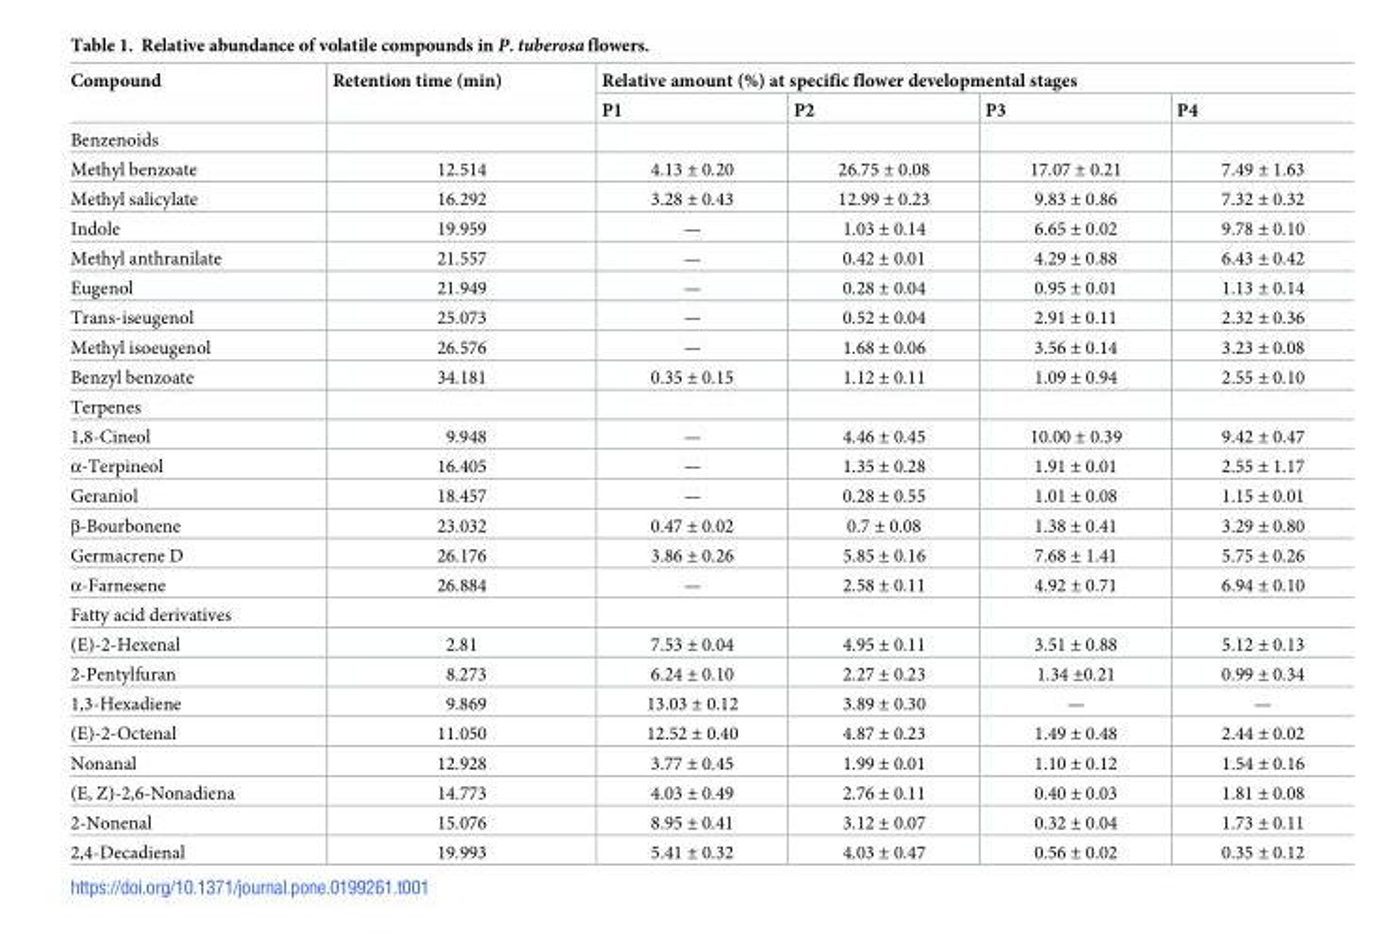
<table><thead><tr><td rowspan="2">Compound</td><td rowspan="2">Retention time (min)</td><td colspan="4">Relative amount (%) at specific flower developmental stages</td></tr><tr><td>P1</td><td>P2</td><td>P3</td><td>P4</td></tr></thead><tbody><tr><td colspan="6">Benzenoids</td></tr><tr><td>Methyl benzoate</td><td>12.514</td><td>4.13 ± 0.20</td><td>26.75 ± 0.08</td><td>17.07 ± 0.21</td><td>7.49 ± 1.63</td></tr><tr><td>Methyl salicylate</td><td>16.292</td><td>3.28 ± 0.43</td><td>12.99 ± 0.23</td><td>9.83 ± 0.86</td><td>7.32 ± 0.32</td></tr><tr><td>Indole</td><td>19.959</td><td>—</td><td>1.03 ± 0.14</td><td>6.65 ± 0.02</td><td>9.78 ± 0.10</td></tr><tr><td>Methyl anthranilate</td><td>21.557</td><td>—</td><td>0.42 ± 0.01</td><td>4.29 ± 0.88</td><td>6.43 ± 0.42</td></tr><tr><td>Eugenol</td><td>21.949</td><td>—</td><td>0.28 ± 0.04</td><td>0.95 ± 0.01</td><td>1.13 ± 0.14</td></tr><tr><td>Trans-iseugenol</td><td>25.073</td><td>—</td><td>0.52 ± 0.04</td><td>2.91 ± 0.11</td><td>2.32 ± 0.36</td></tr><tr><td>Methyl isoeugenol</td><td>26.576</td><td>—</td><td>1.68 ± 0.06</td><td>3.56 ± 0.14</td><td>3.23 ± 0.08</td></tr><tr><td>Benzyl benzoate</td><td>34.181</td><td>0.35 ± 0.15</td><td>1.12 ± 0.11</td><td>1.09 ± 0.94</td><td>2.55 ± 0.10</td></tr><tr><td colspan="6">Terpenes</td></tr><tr><td>1,8-Cineol</td><td>9.948</td><td>—</td><td>4.46 ± 0.45</td><td>10.00 ± 0.39</td><td>9.42 ± 0.47</td></tr><tr><td>α-Terpineol</td><td>16.405</td><td>—</td><td>1.35 ± 0.28</td><td>1.91 ± 0.01</td><td>2.55 ± 1.17</td></tr><tr><td>Geraniol</td><td>18.457</td><td>—</td><td>0.28 ± 0.55</td><td>1.01 ± 0.08</td><td>1.15 ± 0.01</td></tr><tr><td>β-Bourbonene</td><td>23.032</td><td>0.47 ± 0.02</td><td>0.7 ± 0.08</td><td>1.38 ± 0.41</td><td>3.29 ± 0.80</td></tr><tr><td>Germacrene D</td><td>26.176</td><td>3.86 ± 0.26</td><td>5.85 ± 0.16</td><td>7.68 ± 1.41</td><td>5.75 ± 0.26</td></tr><tr><td>α-Farnesene</td><td>26.884</td><td>—</td><td>2.58 ± 0.11</td><td>4.92 ± 0.71</td><td>6.94 ± 0.10</td></tr><tr><td colspan="6">Fatty acid derivatives</td></tr><tr><td>(E)-2-Hexenal</td><td>2.81</td><td>7.53 ± 0.04</td><td>4.95 ± 0.11</td><td>3.51 ± 0.88</td><td>5.12 ± 0.13</td></tr><tr><td>2-Pentylfuran</td><td>8.273</td><td>6.24 ± 0.10</td><td>2.27 ± 0.23</td><td>1.34 ±0.21</td><td>0.99 ± 0.34</td></tr><tr><td>1,3-Hexadiene</td><td>9.869</td><td>13.03 ± 0.12</td><td>3.89 ± 0.30</td><td>—</td><td>—</td></tr><tr><td>(E)-2-Octenal</td><td>11.050</td><td>12.52 ± 0.40</td><td>4.87 ± 0.23</td><td>1.49 ± 0.48</td><td>2.44 ± 0.02</td></tr><tr><td>Nonanal</td><td>12.928</td><td>3.77 ± 0.45</td><td>1.99 ± 0.01</td><td>1.10 ± 0.12</td><td>1.54 ± 0.16</td></tr><tr><td>(E, Z)-2,6-Nonadiena</td><td>14.773</td><td>4.03 ± 0.49</td><td>2.76 ± 0.11</td><td>0.40 ± 0.03</td><td>1.81 ± 0.08</td></tr><tr><td>2-Nonenal</td><td>15.076</td><td>8.95 ± 0.41</td><td>3.12 ± 0.07</td><td>0.32 ± 0.04</td><td>1.73 ± 0.11</td></tr><tr><td>2,4-Decadienal</td><td>19.993</td><td>5.41 ± 0.32</td><td>4.03 ± 0.47</td><td>0.56 ± 0.02</td><td>0.35 ± 0.12</td></tr></tbody></table>